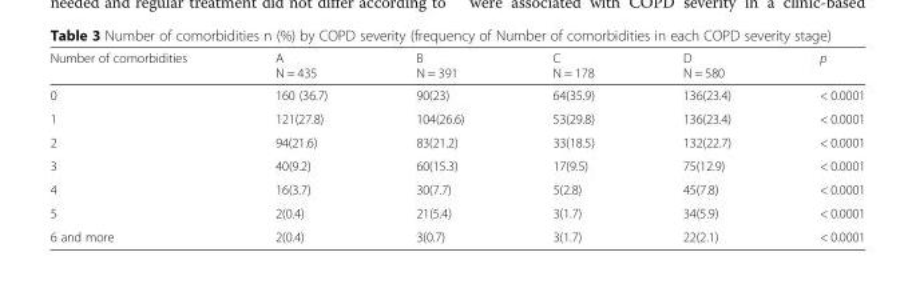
<table><thead><tr><td>Number of comorbidities</td><td>A N = 435</td><td>B N = 391</td><td>C N = 178</td><td>D N = 580</td><td>p</td></tr></thead><tbody><tr><td>0</td><td>160 (36.7)</td><td>90(23)</td><td>64(35.9)</td><td>136(23.4)</td><td>&lt; 0.0001</td></tr><tr><td>1</td><td>121(27.8)</td><td>104(26.6)</td><td>53(29.8)</td><td>136(23.4)</td><td>&lt; 0.0001</td></tr><tr><td>2</td><td>94(21.6)</td><td>83(21.2)</td><td>33(18.5)</td><td>132(22.7)</td><td>&lt; 0.0001</td></tr><tr><td>3</td><td>40(9.2)</td><td>60(15.3)</td><td>17(9.5)</td><td>75(12.9)</td><td>&lt; 0.0001</td></tr><tr><td>4</td><td>16(3.7)</td><td>30(7.7)</td><td>5(2.8)</td><td>45(7.8)</td><td>&lt; 0.0001</td></tr><tr><td>5</td><td>2(0.4)</td><td>21(5.4)</td><td>3(1.7)</td><td>34(5.9)</td><td>&lt; 0.0001</td></tr><tr><td>6 and more</td><td>2(0.4)</td><td>3(0.7)</td><td>3(1.7)</td><td>22(2.1)</td><td>&lt; 0.0001</td></tr></tbody></table>